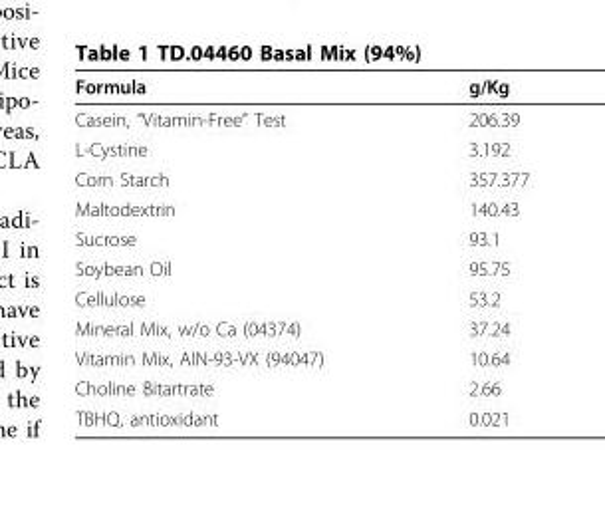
<table><thead><tr><td>Formula</td><td>g/Kg</td></tr></thead><tbody><tr><td>Casein, “Vitamin-Free” Test</td><td>206.39</td></tr><tr><td>L-Cystine</td><td>3.192</td></tr><tr><td>Corn Starch</td><td>357.377</td></tr><tr><td>Maltodextrin</td><td>140.43</td></tr><tr><td>Sucrose</td><td>93.1</td></tr><tr><td>Soybean Oil</td><td>95.75</td></tr><tr><td>Cellulose</td><td>53.2</td></tr><tr><td>Mineral Mix, w/o Ca (04374)</td><td>37.24</td></tr><tr><td>Vitamin Mix, AIN-93-VX (94047)</td><td>10.64</td></tr><tr><td>Choline Bitartrate</td><td>2.66</td></tr><tr><td>TBHQ, antioxidant</td><td>0.021</td></tr></tbody></table>